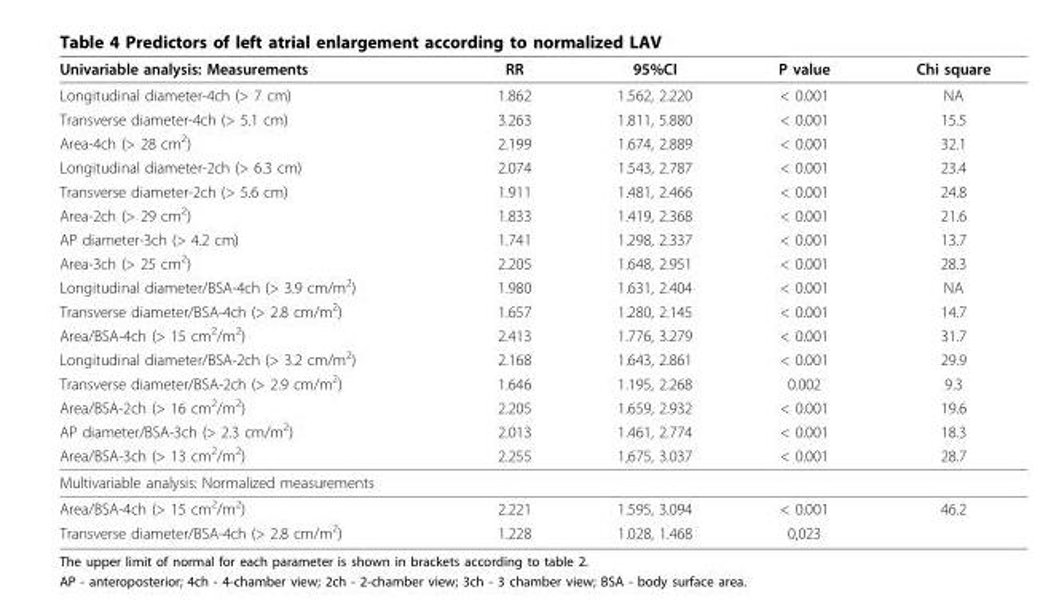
<table><thead><tr><td>Univariable analysis: Measurements</td><td>RR</td><td>95%CI</td><td>P value</td><td>Chi square</td></tr></thead><tbody><tr><td>Longitudinal diameter-4ch (&gt; 7 cm)</td><td>1.862</td><td>1.562, 2.220</td><td>&lt; 0.001</td><td>NA</td></tr><tr><td>Transverse diameter-4ch (&gt; 5.1 cm)</td><td>3.263</td><td>1.811, 5.880</td><td>&lt; 0.001</td><td>15.5</td></tr><tr><td>Area-4ch (&gt; 28 cm<sup>2</sup>)</td><td>2.199</td><td>1.674, 2.889</td><td>&lt; 0.001</td><td>32.1</td></tr><tr><td>Longitudinal diameter-2ch (&gt; 6.3 cm)</td><td>2.074</td><td>1.543, 2.787</td><td>&lt; 0.001</td><td>23.4</td></tr><tr><td>Transverse diameter-2ch (&gt; 5.6 cm)</td><td>1.911</td><td>1.481, 2.466</td><td>&lt; 0.001</td><td>24.8</td></tr><tr><td>Area-2ch (&gt; 29 cm<sup>2</sup>)</td><td>1.833</td><td>1.419, 2.368</td><td>&lt; 0.001</td><td>21.6</td></tr><tr><td>AP diameter-3ch (&gt; 4.2 cm)</td><td>1.741</td><td>1.298, 2.337</td><td>&lt; 0.001</td><td>13.7</td></tr><tr><td>Area-3ch (&gt; 25 cm<sup>2</sup>)</td><td>2.205</td><td>1.648, 2.951</td><td>&lt; 0.001</td><td>28.3</td></tr><tr><td>Longitudinal diameter/BSA-4ch (&gt; 3.9 cm/m<sup>2</sup>)</td><td>1.980</td><td>1.631, 2.404</td><td>&lt; 0.001</td><td>NA</td></tr><tr><td>Transverse diameter/BSA-4ch (&gt; 2.8 cm/m<sup>2</sup>)</td><td>1.657</td><td>1.280, 2.145</td><td>&lt; 0.001</td><td>14.7</td></tr><tr><td>Area/BSA-4ch (&gt; 15 cm<sup>2</sup>/m<sup>2</sup>)</td><td>2.413</td><td>1.776, 3.279</td><td>&lt; 0.001</td><td>31.7</td></tr><tr><td>Longitudinal diameter/BSA-2ch (&gt; 3.2 cm/m<sup>2</sup>)</td><td>2.168</td><td>1.643, 2.861</td><td>&lt; 0.001</td><td>29.9</td></tr><tr><td>Transverse diameter/BSA-2ch (&gt; 2.9 cm/m<sup>2</sup>)</td><td>1.646</td><td>1.195, 2.268</td><td>0.002</td><td>9.3</td></tr><tr><td>Area/BSA-2ch (&gt; 16 cm<sup>2</sup>/m<sup>2</sup>)</td><td>2.205</td><td>1.659, 2.932</td><td>&lt; 0.001</td><td>19.6</td></tr><tr><td>AP diameter/BSA-3ch (&gt; 2.3 cm/m<sup>2</sup>)</td><td>2.013</td><td>1.461, 2.774</td><td>&lt; 0.001</td><td>18.3</td></tr><tr><td>Area/BSA-3ch (&gt; 13 cm<sup>2</sup>/m<sup>2</sup>)</td><td>2.255</td><td>1,675, 3.037</td><td>&lt; 0.001</td><td>28.7</td></tr><tr><td colspan="5">Multivariable analysis: Normalized measurements</td></tr><tr><td>Area/BSA-4ch (&gt; 15 cm<sup>2</sup>/m<sup>2</sup>)</td><td>2.221</td><td>1.595, 3.094</td><td>&lt; 0.001</td><td>46.2</td></tr><tr><td>Transverse diameter/BSA-4ch (&gt; 2.8 cm/m<sup>2</sup>)</td><td>1.228</td><td>1.028, 1.468</td><td>0,023</td><td></td></tr></tbody></table>